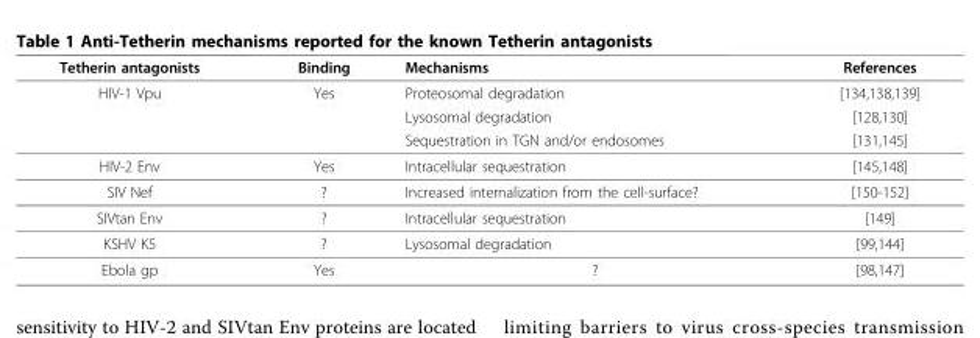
<table><thead><tr><td>Tetherin antagonists</td><td>Binding</td><td>Mechanisms</td><td>References</td></tr></thead><tbody><tr><td rowspan="3">HIV-1 Vpu</td><td>Yes</td><td>Proteosomal degradation</td><td>[134,138,139]</td></tr><tr><td></td><td>Lysosomal degradation</td><td>[128,130]</td></tr><tr><td></td><td>Sequestration in TGN and/or endosomes</td><td>[131,145]</td></tr><tr><td>HIV-2 Env</td><td>Yes</td><td>Intracellular sequestration</td><td>[145,148]</td></tr><tr><td>SIV Nef</td><td>?</td><td>Increased internalization from the cell-surface?</td><td>[150-152]</td></tr><tr><td>SIVtan Env</td><td>?</td><td>Intracellular sequestration</td><td>[149]</td></tr><tr><td>KSHV K5</td><td>?</td><td>Lysosomal degradation</td><td>[99,144]</td></tr><tr><td>Ebola gp</td><td>Yes</td><td>?</td><td>[98,147]</td></tr></tbody></table>